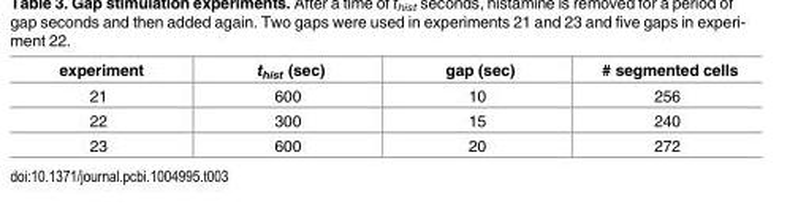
<table><thead><tr><td>experiment</td><td>t<sub>hist</sub> (sec)</td><td>gap (sec)</td><td># segmented cells</td></tr></thead><tbody><tr><td>21</td><td>600</td><td>10</td><td>256</td></tr><tr><td>22</td><td>300</td><td>15</td><td>240</td></tr><tr><td>23</td><td>600</td><td>20</td><td>272</td></tr></tbody></table>